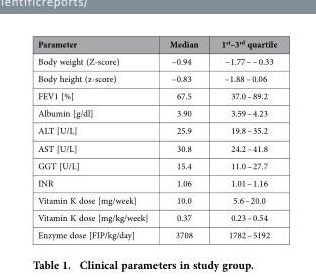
<table><thead><tr><td>Parameter</td><td>Median</td><td>1<sup>st</sup>–3<sup>rd</sup> quartile</td></tr></thead><tbody><tr><td>Body weight (Z-score)</td><td>– 0.94</td><td>– 1.77 – – 0.33</td></tr><tr><td>Body height (z-score)</td><td>– 0.83</td><td>– 1.88 – 0.06</td></tr><tr><td>FEV1 [%]</td><td>67.5</td><td>37.0 – 89.2</td></tr><tr><td>Albumin [g/dl]</td><td>3.90</td><td>3.59 – 4.23</td></tr><tr><td>ALT [U/L]</td><td>25.9</td><td>19.8 – 35.2</td></tr><tr><td>AST [U/L]</td><td>30.8</td><td>24.2 – 41.8</td></tr><tr><td>GGT [U/L]</td><td>15.4</td><td>11.0 – 27.7</td></tr><tr><td>INR</td><td>1.06</td><td>1.01 – 1.16</td></tr><tr><td>Vitamin K dose [mg/week]</td><td>10.0</td><td>5.6 – 20.0</td></tr><tr><td>Vitamin K dose [mg/kg/week]</td><td>0.37</td><td>0.23 – 0.54</td></tr><tr><td>Enzyme dose [FIP/kg/day]</td><td>3708</td><td>1782 – 5192</td></tr></tbody></table>